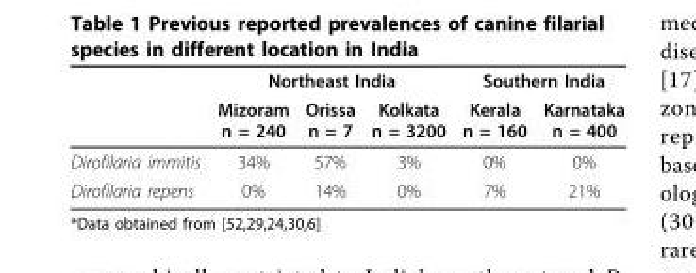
<table><thead><tr><td rowspan="2"></td><td colspan="3">Northeast India</td><td colspan="2">Southern India</td></tr><tr><td>Mizoram n = 240</td><td>Orissa n = 7</td><td>Kolkata n = 3200</td><td>Kerala n = 160</td><td>Karnataka n = 400</td></tr></thead><tbody><tr><td>Dirofilaria immitis</td><td>34%</td><td>57%</td><td>3%</td><td>0%</td><td>0%</td></tr><tr><td>Dirofilaria repens</td><td>0%</td><td>14%</td><td>0%</td><td>7%</td><td>21%</td></tr></tbody></table>